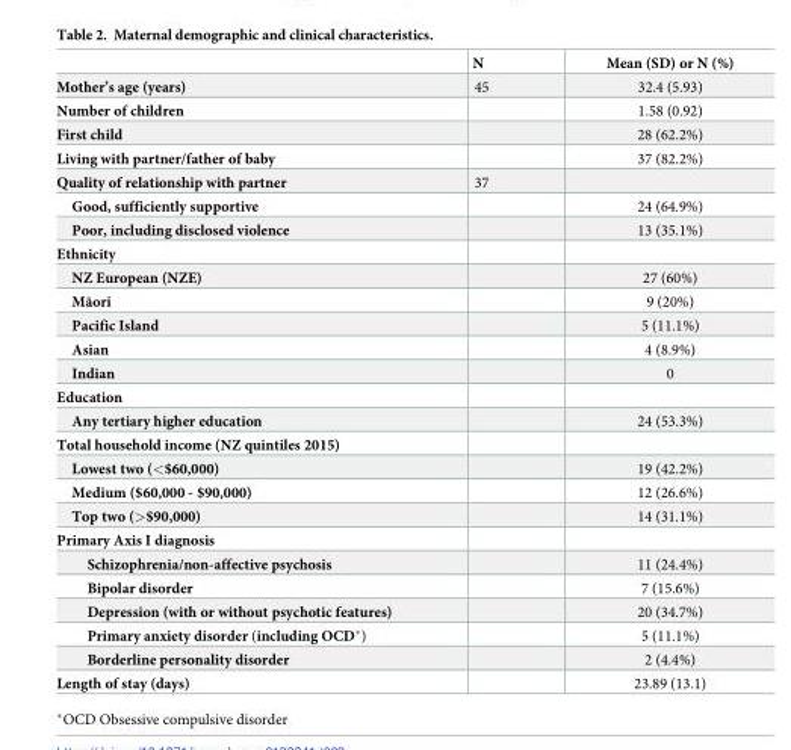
<table><thead><tr><td></td><td>N</td><td>Mean (SD) or N (%)</td></tr></thead><tbody><tr><td>Mother’s age (years)</td><td>45</td><td>32.4 (5.93)</td></tr><tr><td>Number of children</td><td></td><td>1.58 (0.92)</td></tr><tr><td>First child</td><td></td><td>28 (62.2%)</td></tr><tr><td>Living with partner/father of baby</td><td></td><td>37 (82.2%)</td></tr><tr><td>Quality of relationship with partner</td><td>37</td><td></td></tr><tr><td>Good, sufficiently supportive</td><td></td><td>24 (64.9%)</td></tr><tr><td>Poor, including disclosed violence</td><td></td><td>13 (35.1%)</td></tr><tr><td colspan="3">Ethnicity</td></tr><tr><td>NZ European (NZE)</td><td></td><td>27 (60%)</td></tr><tr><td>Māori</td><td></td><td>9 (20%)</td></tr><tr><td>Pacific Island</td><td></td><td>5 (11.1%)</td></tr><tr><td>Asian</td><td></td><td>4 (8.9%)</td></tr><tr><td>Indian</td><td></td><td>0</td></tr><tr><td colspan="3">Education</td></tr><tr><td>Any tertiary higher education</td><td></td><td>24 (53.3%)</td></tr><tr><td colspan="3">Total household income (NZ quintiles 2015)</td></tr><tr><td>Lowest two (&lt;$60,000)</td><td></td><td>19 (42.2%)</td></tr><tr><td>Medium ($60,000 - $90,000)</td><td></td><td>12 (26.6%)</td></tr><tr><td>Top two (&gt;$90,000)</td><td></td><td>14 (31.1%)</td></tr><tr><td colspan="3">Primary Axis I diagnosis</td></tr><tr><td>Schizophrenia/non-affective psychosis</td><td></td><td>11 (24.4%)</td></tr><tr><td>Bipolar disorder</td><td></td><td>7 (15.6%)</td></tr><tr><td>Depression (with or without psychotic features)</td><td></td><td>20 (34.7%)</td></tr><tr><td>Primary anxiety disorder (including OCD*)</td><td></td><td>5 (11.1%)</td></tr><tr><td>Borderline personality disorder</td><td></td><td>2 (4.4%)</td></tr><tr><td>Length of stay (days)</td><td></td><td>23.89 (13.1)</td></tr></tbody></table>